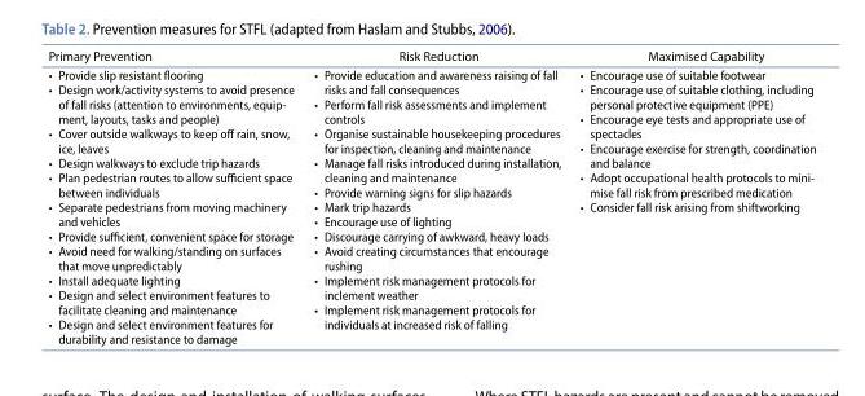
<table><thead><tr><td>Primary Prevention</td><td>Risk Reduction</td><td>Maximised Capability</td></tr></thead><tbody><tr><td>• Provide slip resistant flooring • Design work/activity systems to avoid presence of fall risks (attention to environments, equip- ment, layouts, tasks and people) • cover outside walkways to keep off rain, snow, ice, leaves • Design walkways to exclude trip hazards • Plan pedestrian routes to allow sufficient space between individuals • separate pedestrians from moving machinery and vehicles • Provide sufficient, convenient space for storage • Avoid need for walking/standing on surfaces that move unpredictably • install adequate lighting • Design and select environment features to facilitate cleaning and maintenance • Design and select environment features for durability and resistance to damage</td><td>• Provide education and awareness raising of fall risks and fall consequences • Perform fall risk assessments and implement controls • organise sustainable housekeeping procedures for inspection, cleaning and maintenance • manage fall risks introduced during installation, cleaning and maintenance • Provide warning signs for slip hazards • mark trip hazards • Encourage use of lighting • Discourage carrying of awkward, heavy loads • Avoid creating circumstances that encourage rushing • implement risk management protocols for inclement weather • implement risk management protocols for individuals at increased risk of falling</td><td>• Encourage use of suitable footwear • Encourage use of suitable clothing, including personal protective equipment (PPE) • Encourage eye tests and appropriate use of spectacles • Encourage exercise for strength, coordination and balance • Adopt occupational health protocols to mini- mise fall risk from prescribed medication • consider fall risk arising from shiftworking</td></tr></tbody></table>